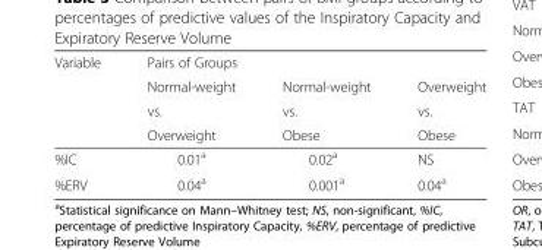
<table><thead><tr><td rowspan="4">Variable</td><td colspan="3">Pairs of Groups</td></tr><tr><td rowspan="3">Normal-weight vs. Overweight</td><td rowspan="3">Normal-weight vs. Obese</td><td rowspan="3">Overweight vs. Obese</td></tr><tr></tr><tr></tr></thead><tbody><tr><td>%IC</td><td>0.01<sup>a</sup></td><td>0.02<sup>a</sup></td><td>NS</td></tr><tr><td>%ERV</td><td>0.04<sup>a</sup></td><td>0.001<sup>a</sup></td><td>0.04<sup>a</sup></td></tr></tbody></table>